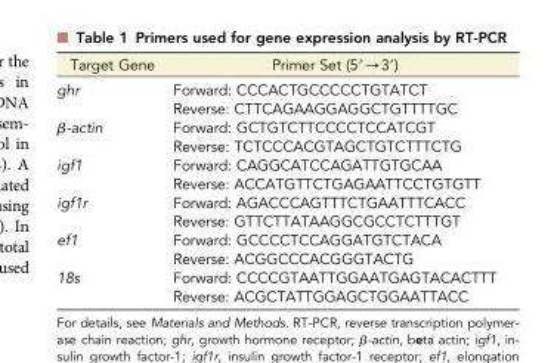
<table><thead><tr><td>Target Gene</td><td>Primer Set (5′→3′)</td></tr></thead><tbody><tr><td rowspan="2">ghr</td><td>Forward: CCCACTGCCCCCTGTATCT</td></tr><tr><td>Reverse: CTTCAGAAGGAGGCTGTTTTGC</td></tr><tr><td rowspan="2">β-actin</td><td>Forward: GCTGTCTTCCCCTCCATCGT</td></tr><tr><td>Reverse: TCTCCCACGTAGCTGTCTTTCTG</td></tr><tr><td rowspan="2">igf1</td><td>Forward: CAGGCATCCAGATTGTGCAA</td></tr><tr><td>Reverse: ACCATGTTCTGAGAATTCCTGTGTT</td></tr><tr><td rowspan="2">igf1r</td><td>Forward: AGACCCAGTTTCTGAATTTCACC</td></tr><tr><td>Reverse: GTTCTTATAAGGCGCCTCTTTGT</td></tr><tr><td rowspan="2">ef1</td><td>Forward: GCCCCTCCAGGATGTCTACA</td></tr><tr><td>Reverse: ACGGCCCACGGGTACTG</td></tr><tr><td rowspan="2">18s</td><td>Forward: CCCCGTAATTGGAATGAGTACACTTT</td></tr><tr><td>Reverse: ACGCTATTGGAGCTGGAATTACC</td></tr></tbody></table>